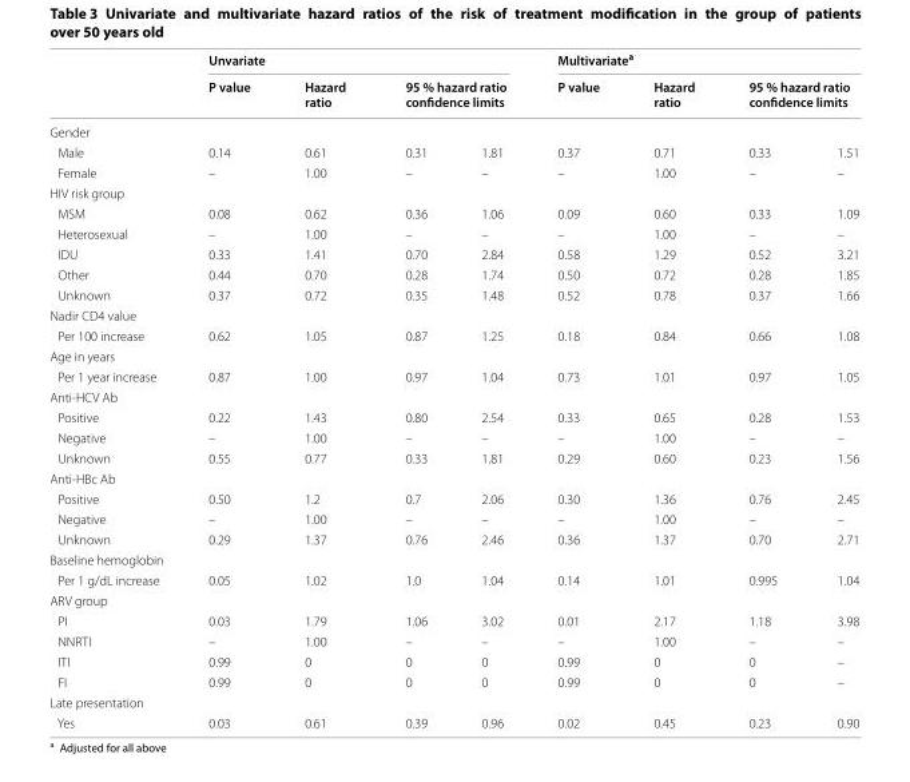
<table><thead><tr><td rowspan="2"></td><td colspan="4">Unvariate</td><td colspan="4">Multivariate<sup>a</sup></td></tr><tr><td>P value</td><td>Hazard ratio</td><td colspan="2">95 % hazard ratio confidence limits</td><td>P value</td><td>Hazard ratio</td><td colspan="2">95 % hazard ratio confidence limits</td></tr><tr><td colspan="9">Gender</td></tr><tr><td>Male</td><td>0.14</td><td>0.61</td><td>0.31</td><td>1.81</td><td>0.37</td><td>0.71</td><td>0.33</td><td>1.51</td></tr></thead><tbody><tr><td>Female</td><td>–</td><td>1.00</td><td>–</td><td>–</td><td>–</td><td>1.00</td><td>–</td><td>–</td></tr><tr><td colspan="9">HIV risk group</td></tr><tr><td>MSM</td><td>0.08</td><td>0.62</td><td>0.36</td><td>1.06</td><td>0.09</td><td>0.60</td><td>0.33</td><td>1.09</td></tr><tr><td>Heterosexual</td><td>–</td><td>1.00</td><td>–</td><td>–</td><td>–</td><td>1.00</td><td>–</td><td>–</td></tr><tr><td>IDU</td><td>0.33</td><td>1.41</td><td>0.70</td><td>2.84</td><td>0.58</td><td>1.29</td><td>0.52</td><td>3.21</td></tr><tr><td>Other</td><td>0.44</td><td>0.70</td><td>0.28</td><td>1.74</td><td>0.50</td><td>0.72</td><td>0.28</td><td>1.85</td></tr><tr><td>Unknown</td><td>0.37</td><td>0.72</td><td>0.35</td><td>1.48</td><td>0.52</td><td>0.78</td><td>0.37</td><td>1.66</td></tr><tr><td colspan="9">Nadir CD4 value</td></tr><tr><td>Per 100 increase</td><td>0.62</td><td>1.05</td><td>0.87</td><td>1.25</td><td>0.18</td><td>0.84</td><td>0.66</td><td>1.08</td></tr><tr><td colspan="9">Age in years</td></tr><tr><td>Per 1 year increase</td><td>0.87</td><td>1.00</td><td>0.97</td><td>1.04</td><td>0.73</td><td>1.01</td><td>0.97</td><td>1.05</td></tr><tr><td colspan="9">Anti‑HCV Ab</td></tr><tr><td>Positive</td><td>0.22</td><td>1.43</td><td>0.80</td><td>2.54</td><td>0.33</td><td>0.65</td><td>0.28</td><td>1.53</td></tr><tr><td>Negative</td><td>–</td><td>1.00</td><td>–</td><td>–</td><td>–</td><td>1.00</td><td>–</td><td>–</td></tr><tr><td>Unknown</td><td>0.55</td><td>0.77</td><td>0.33</td><td>1.81</td><td>0.29</td><td>0.60</td><td>0.23</td><td>1.56</td></tr><tr><td colspan="9">Anti‑HBc Ab</td></tr><tr><td>Positive</td><td>0.50</td><td>1.2</td><td>0.7</td><td>2.06</td><td>0.30</td><td>1.36</td><td>0.76</td><td>2.45</td></tr><tr><td>Negative</td><td>–</td><td>1.00</td><td>–</td><td>–</td><td>–</td><td>1.00</td><td>–</td><td>–</td></tr><tr><td>Unknown</td><td>0.29</td><td>1.37</td><td>0.76</td><td>2.46</td><td>0.36</td><td>1.37</td><td>0.70</td><td>2.71</td></tr><tr><td colspan="9">Baseline hemoglobin</td></tr><tr><td>Per 1 g/dL increase</td><td>0.05</td><td>1.02</td><td>1.0</td><td>1.04</td><td>0.14</td><td>1.01</td><td>0.995</td><td>1.04</td></tr><tr><td colspan="9">ARV group</td></tr><tr><td>PI</td><td>0.03</td><td>1.79</td><td>1.06</td><td>3.02</td><td>0.01</td><td>2.17</td><td>1.18</td><td>3.98</td></tr><tr><td>NNRTI</td><td>–</td><td>1.00</td><td>–</td><td>–</td><td>–</td><td>1.00</td><td>–</td><td>–</td></tr><tr><td>ITI</td><td>0.99</td><td>0</td><td>0</td><td>0</td><td>0.99</td><td>0</td><td>0</td><td>–</td></tr><tr><td>FI</td><td>0.99</td><td>0</td><td>0</td><td>0</td><td>0.99</td><td>0</td><td>0</td><td>–</td></tr><tr><td colspan="9">Late presentation</td></tr><tr><td>Yes</td><td>0.03</td><td>0.61</td><td>0.39</td><td>0.96</td><td>0.02</td><td>0.45</td><td>0.23</td><td>0.90</td></tr></tbody></table>